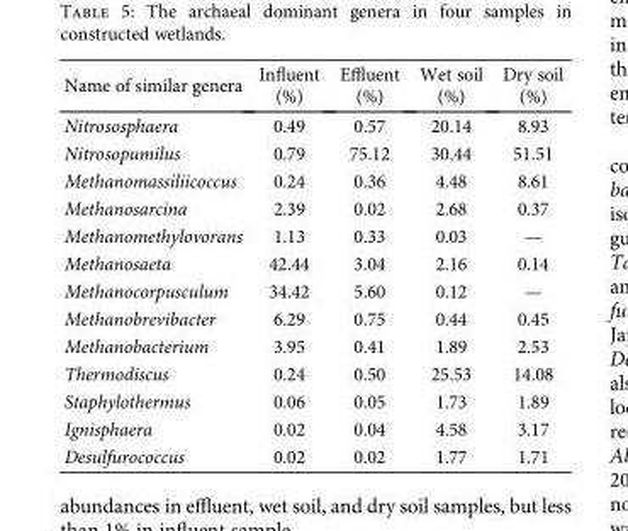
<table><thead><tr><td>Name of similar genera</td><td>Influent (%)</td><td>Effluent (%)</td><td>Wet soil (%)</td><td>Dry soil (%)</td></tr></thead><tbody><tr><td>Nitrososphaera</td><td>0.49</td><td>0.57</td><td>20.14</td><td>8.93</td></tr><tr><td>Nitrosopumilus</td><td>0.79</td><td>75.12</td><td>30.44</td><td>51.51</td></tr><tr><td>Methanomassiliicoccus</td><td>0.24</td><td>0.36</td><td>4.48</td><td>8.61</td></tr><tr><td>Methanosarcina</td><td>2.39</td><td>0.02</td><td>2.68</td><td>0.37</td></tr><tr><td>Methanomethylovorans</td><td>1.13</td><td>0.33</td><td>0.03</td><td>—</td></tr><tr><td>Methanosaeta</td><td>42.44</td><td>3.04</td><td>2.16</td><td>0.14</td></tr><tr><td>Methanocorpusculum</td><td>34.42</td><td>5.60</td><td>0.12</td><td>—</td></tr><tr><td>Methanobrevibacter</td><td>6.29</td><td>0.75</td><td>0.44</td><td>0.45</td></tr><tr><td>Methanobacterium</td><td>3.95</td><td>0.41</td><td>1.89</td><td>2.53</td></tr><tr><td>Thermodiscus</td><td>0.24</td><td>0.50</td><td>25.53</td><td>14.08</td></tr><tr><td>Staphylothermus</td><td>0.06</td><td>0.05</td><td>1.73</td><td>1.89</td></tr><tr><td>Ignisphaera</td><td>0.02</td><td>0.04</td><td>4.58</td><td>3.17</td></tr><tr><td>Desulfurococcus</td><td>0.02</td><td>0.02</td><td>1.77</td><td>1.71</td></tr></tbody></table>